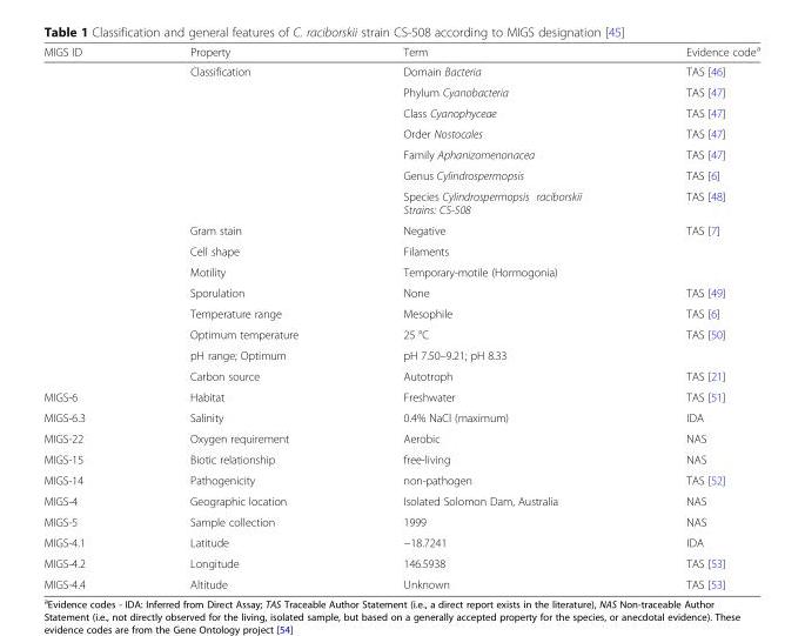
<table><thead><tr><td>MIGS ID</td><td>Property</td><td>Term</td><td>Evidence code<sup>a</sup></td></tr></thead><tbody><tr><td rowspan="15"></td><td rowspan="7">Classification</td><td>Domain Bacteria</td><td>TAS [46]</td></tr><tr><td>Phylum Cyanobacteria</td><td>TAS [47]</td></tr><tr><td>Class Cyanophyceae</td><td>TAS [47]</td></tr><tr><td>Order Nostocales</td><td>TAS [47]</td></tr><tr><td>Family Aphanizomenonacea</td><td>TAS [47]</td></tr><tr><td>Genus Cylindrospermopsis</td><td>TAS [6]</td></tr><tr><td>Species Cylindrospermopsis raciborskii Strains: CS-508</td><td>TAS [48]</td></tr><tr><td>Gram stain</td><td>Negative</td><td>TAS [7]</td></tr><tr><td>Cell shape</td><td>Filaments</td><td></td></tr><tr><td>Motility</td><td>Temporary-motile (Hormogonia)</td><td></td></tr><tr><td>Sporulation</td><td>None</td><td>TAS [49]</td></tr><tr><td>Temperature range</td><td>Mesophile</td><td>TAS [6]</td></tr><tr><td>Optimum temperature</td><td>25 °C</td><td>TAS [50]</td></tr><tr><td>pH range; Optimum</td><td>pH 7.50–9.21; pH 8.33</td><td></td></tr><tr><td>Carbon source</td><td>Autotroph</td><td>TAS [21]</td></tr><tr><td>MIGS-6</td><td>Habitat</td><td>Freshwater</td><td>TAS [51]</td></tr><tr><td>MIGS-6.3</td><td>Salinity</td><td>0.4% NaCl (maximum)</td><td>IDA</td></tr><tr><td>MIGS-22</td><td>Oxygen requirement</td><td>Aerobic</td><td>NAS</td></tr><tr><td>MIGS-15</td><td>Biotic relationship</td><td>free-living</td><td>NAS</td></tr><tr><td>MIGS-14</td><td>Pathogenicity</td><td>non-pathogen</td><td>TAS [52]</td></tr><tr><td>MIGS-4</td><td>Geographic location</td><td>Isolated Solomon Dam, Australia</td><td>NAS</td></tr><tr><td>MIGS-5</td><td>Sample collection</td><td>1999</td><td>NAS</td></tr><tr><td>MIGS-4.1</td><td>Latitude</td><td>−18.7241</td><td>IDA</td></tr><tr><td>MIGS-4.2</td><td>Longitude</td><td>146.5938</td><td>TAS [53]</td></tr><tr><td>MIGS-4.4</td><td>Altitude</td><td>Unknown</td><td>TAS [53]</td></tr></tbody></table>